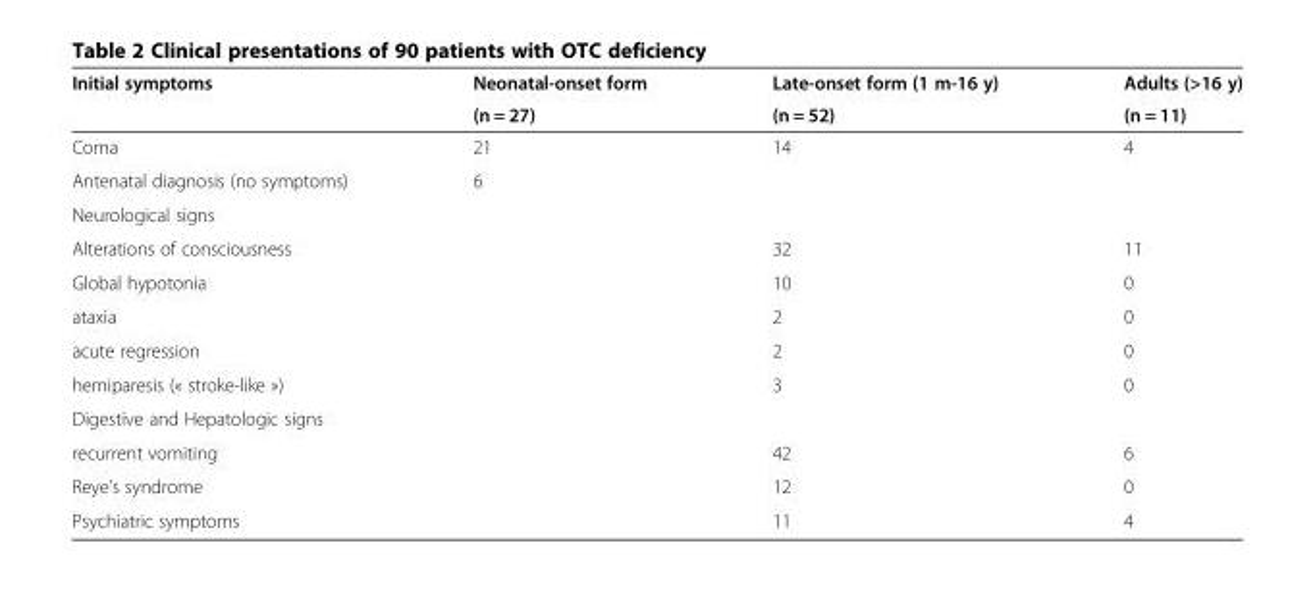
<table><thead><tr><td rowspan="2">Initial symptoms</td><td rowspan="2">Neonatal-onset form (n = 27)</td><td rowspan="2">Late-onset form (1 m-16 y) (n = 52)</td><td rowspan="2">Adults (&gt;16 y) (n = 11)</td></tr><tr></tr></thead><tbody><tr><td>Coma</td><td>21</td><td>14</td><td>4</td></tr><tr><td>Antenatal diagnosis (no symptoms)</td><td>6</td><td></td><td></td></tr><tr><td colspan="4">Neurological signs</td></tr><tr><td>Alterations of consciousness</td><td></td><td>32</td><td>11</td></tr><tr><td>Global hypotonia</td><td></td><td>10</td><td>0</td></tr><tr><td>ataxia</td><td></td><td>2</td><td>0</td></tr><tr><td>acute regression</td><td></td><td>2</td><td>0</td></tr><tr><td>hemiparesis (« stroke-like »)</td><td></td><td>3</td><td>0</td></tr><tr><td colspan="4">Digestive and Hepatologic signs</td></tr><tr><td>recurrent vomiting</td><td></td><td>42</td><td>6</td></tr><tr><td>Reye’s syndrome</td><td></td><td>12</td><td>0</td></tr><tr><td>Psychiatric symptoms</td><td></td><td>11</td><td>4</td></tr></tbody></table>